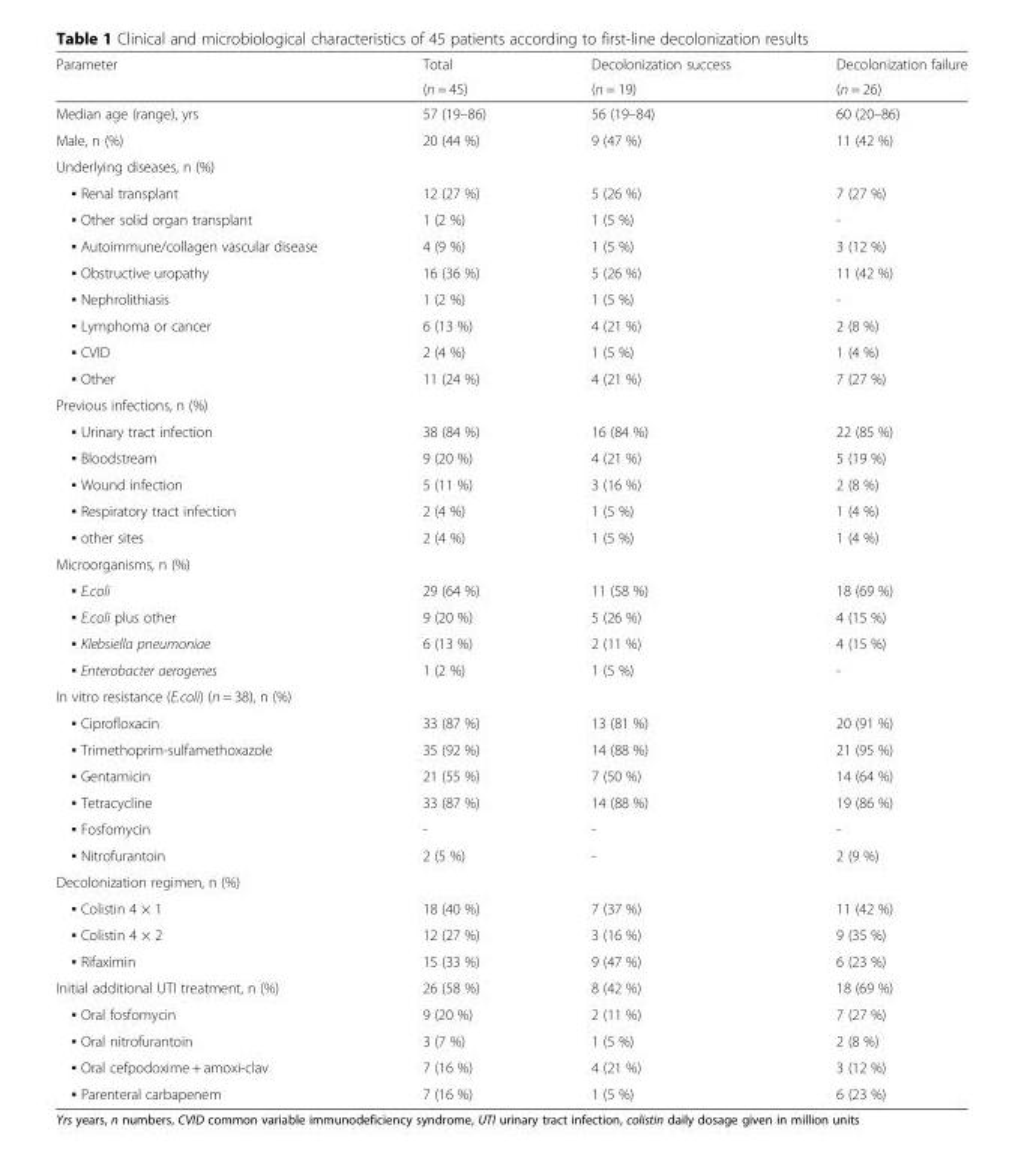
<table><thead><tr><td rowspan="2">Parameter</td><td rowspan="2">Total (n = 45)</td><td rowspan="2">Decolonization success (n = 19)</td><td rowspan="2">Decolonization failure (n = 26)</td></tr><tr></tr></thead><tbody><tr><td>Median age (range), yrs</td><td>57 (19–86)</td><td>56 (19–84)</td><td>60 (20–86)</td></tr><tr><td>Male, n (%)</td><td>20 (44 %)</td><td>9 (47 %)</td><td>11 (42 %)</td></tr><tr><td colspan="4">Underlying diseases, n (%)</td></tr><tr><td>▪ Renal transplant</td><td>12 (27 %)</td><td>5 (26 %)</td><td>7 (27 %)</td></tr><tr><td>▪ Other solid organ transplant</td><td>1 (2 %)</td><td>1 (5 %)</td><td>-</td></tr><tr><td>▪ Autoimmune/collagen vascular disease</td><td>4 (9 %)</td><td>1 (5 %)</td><td>3 (12 %)</td></tr><tr><td>▪ Obstructive uropathy</td><td>16 (36 %)</td><td>5 (26 %)</td><td>11 (42 %)</td></tr><tr><td>▪ Nephrolithiasis</td><td>1 (2 %)</td><td>1 (5 %)</td><td>-</td></tr><tr><td>▪ Lymphoma or cancer</td><td>6 (13 %)</td><td>4 (21 %)</td><td>2 (8 %)</td></tr><tr><td>▪ CVID</td><td>2 (4 %)</td><td>1 (5 %)</td><td>1 (4 %)</td></tr><tr><td>▪ Other</td><td>11 (24 %)</td><td>4 (21 %)</td><td>7 (27 %)</td></tr><tr><td colspan="4">Previous infections, n (%)</td></tr><tr><td>▪ Urinary tract infection</td><td>38 (84 %)</td><td>16 (84 %)</td><td>22 (85 %)</td></tr><tr><td>▪ Bloodstream</td><td>9 (20 %)</td><td>4 (21 %)</td><td>5 (19 %)</td></tr><tr><td>▪ Wound infection</td><td>5 (11 %)</td><td>3 (16 %)</td><td>2 (8 %)</td></tr><tr><td>▪ Respiratory tract infection</td><td>2 (4 %)</td><td>1 (5 %)</td><td>1 (4 %)</td></tr><tr><td>▪ other sites</td><td>2 (4 %)</td><td>1 (5 %)</td><td>1 (4 %)</td></tr><tr><td colspan="4">Microorganisms, n (%)</td></tr><tr><td>▪ E.coli</td><td>29 (64 %)</td><td>11 (58 %)</td><td>18 (69 %)</td></tr><tr><td>▪ E.coli plus other</td><td>9 (20 %)</td><td>5 (26 %)</td><td>4 (15 %)</td></tr><tr><td>▪ Klebsiella pneumoniae</td><td>6 (13 %)</td><td>2 (11 %)</td><td>4 (15 %)</td></tr><tr><td>▪ Enterobacter aerogenes</td><td>1 (2 %)</td><td>1 (5 %)</td><td>-</td></tr><tr><td colspan="4">In vitro resistance (E.coli) (n = 38), n (%)</td></tr><tr><td>▪ Ciprofloxacin</td><td>33 (87 %)</td><td>13 (81 %)</td><td>20 (91 %)</td></tr><tr><td>▪ Trimethoprim-sulfamethoxazole</td><td>35 (92 %)</td><td>14 (88 %)</td><td>21 (95 %)</td></tr><tr><td>▪ Gentamicin</td><td>21 (55 %)</td><td>7 (50 %)</td><td>14 (64 %)</td></tr><tr><td>▪ Tetracycline</td><td>33 (87 %)</td><td>14 (88 %)</td><td>19 (86 %)</td></tr><tr><td>▪ Fosfomycin</td><td>-</td><td>-</td><td>-</td></tr><tr><td>▪ Nitrofurantoin</td><td>2 (5 %)</td><td>-</td><td>2 (9 %)</td></tr><tr><td colspan="4">Decolonization regimen, n (%)</td></tr><tr><td>▪ Colistin 4 × 1</td><td>18 (40 %)</td><td>7 (37 %)</td><td>11 (42 %)</td></tr><tr><td>▪ Colistin 4 × 2</td><td>12 (27 %)</td><td>3 (16 %)</td><td>9 (35 %)</td></tr><tr><td>▪ Rifaximin</td><td>15 (33 %)</td><td>9 (47 %)</td><td>6 (23 %)</td></tr><tr><td>Initial additional UTI treatment, n (%)</td><td>26 (58 %)</td><td>8 (42 %)</td><td>18 (69 %)</td></tr><tr><td>▪ Oral fosfomycin</td><td>9 (20 %)</td><td>2 (11 %)</td><td>7 (27 %)</td></tr><tr><td>▪ Oral nitrofurantoin</td><td>3 (7 %)</td><td>1 (5 %)</td><td>2 (8 %)</td></tr><tr><td>▪ Oral cefpodoxime + amoxi-clav</td><td>7 (16 %)</td><td>4 (21 %)</td><td>3 (12 %)</td></tr><tr><td>▪ Parenteral carbapenem</td><td>7 (16 %)</td><td>1 (5 %)</td><td>6 (23 %)</td></tr></tbody></table>